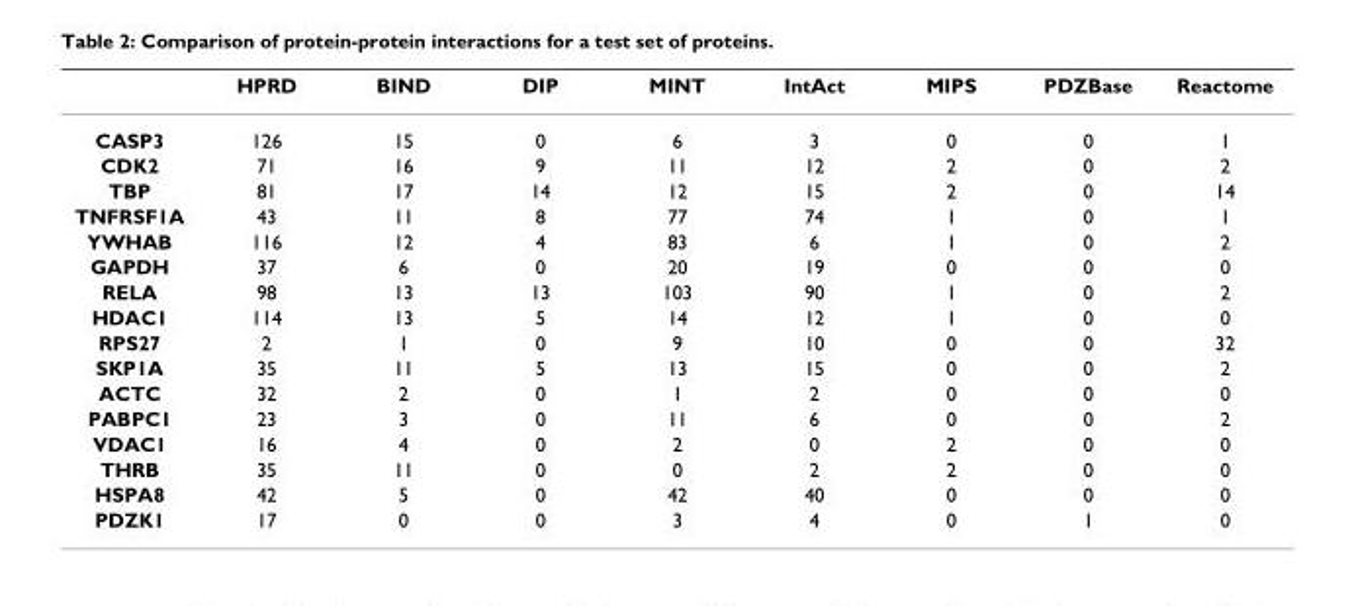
<table><thead><tr><td></td><td>HPRD</td><td>BIND</td><td>DIP</td><td>MINT</td><td>IntAct</td><td>MIPS</td><td>PDZBase</td><td>Reactome</td></tr></thead><tbody><tr><td>CASP3</td><td>126</td><td>15</td><td>0</td><td>6</td><td>3</td><td>0</td><td>0</td><td>1</td></tr><tr><td>CDK2</td><td>71</td><td>16</td><td>9</td><td>11</td><td>12</td><td>2</td><td>0</td><td>2</td></tr><tr><td>TBP</td><td>81</td><td>17</td><td>14</td><td>12</td><td>15</td><td>2</td><td>0</td><td>14</td></tr><tr><td>TNFRSF1A</td><td>43</td><td>11</td><td>8</td><td>77</td><td>74</td><td>1</td><td>0</td><td>1</td></tr><tr><td>YWHAB</td><td>116</td><td>12</td><td>4</td><td>83</td><td>6</td><td>1</td><td>0</td><td>2</td></tr><tr><td>GAPDH</td><td>37</td><td>6</td><td>0</td><td>20</td><td>19</td><td>0</td><td>0</td><td>0</td></tr><tr><td>RELA</td><td>98</td><td>13</td><td>13</td><td>103</td><td>90</td><td>1</td><td>0</td><td>2</td></tr><tr><td>HDAC1</td><td>114</td><td>13</td><td>5</td><td>14</td><td>12</td><td>1</td><td>0</td><td>0</td></tr><tr><td>RPS27</td><td>2</td><td>1</td><td>0</td><td>9</td><td>10</td><td>0</td><td>0</td><td>32</td></tr><tr><td>SKP1A</td><td>35</td><td>11</td><td>5</td><td>13</td><td>15</td><td>0</td><td>0</td><td>2</td></tr><tr><td>ACTC</td><td>32</td><td>2</td><td>0</td><td>1</td><td>2</td><td>0</td><td>0</td><td>0</td></tr><tr><td>PABPC1</td><td>23</td><td>3</td><td>0</td><td>11</td><td>6</td><td>0</td><td>0</td><td>2</td></tr><tr><td>VDAC1</td><td>16</td><td>4</td><td>0</td><td>2</td><td>0</td><td>2</td><td>0</td><td>0</td></tr><tr><td>THRB</td><td>35</td><td>11</td><td>0</td><td>0</td><td>2</td><td>2</td><td>0</td><td>0</td></tr><tr><td>HSPA8</td><td>42</td><td>5</td><td>0</td><td>42</td><td>40</td><td>0</td><td>0</td><td>0</td></tr><tr><td>PDZK1</td><td>17</td><td>0</td><td>0</td><td>3</td><td>4</td><td>0</td><td>1</td><td>0</td></tr></tbody></table>